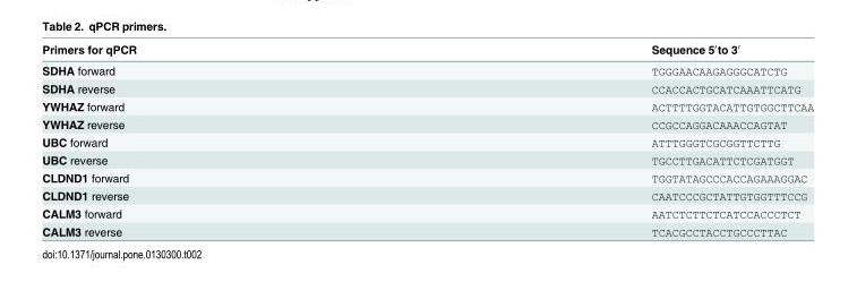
<table><thead><tr><td>Primers for qPCR</td><td>Sequence 5′to 3′</td></tr></thead><tbody><tr><td>SDHA forward</td><td>TGGGAACAAGAGGGCATCTG</td></tr><tr><td>SDHA reverse</td><td>CCACCACTGCATCAAATTCATG</td></tr><tr><td>YWHAZ forward</td><td>ACTTTTGGTACATTGTGGCTTCAA</td></tr><tr><td>YWHAZ reverse</td><td>CCGCCAGGACAAACCAGTAT</td></tr><tr><td>UBC forward</td><td>ATTTGGGTCGCGGTTCTTG</td></tr><tr><td>UBC reverse</td><td>TGCCTTGACATTCTCGATGGT</td></tr><tr><td>CLDND1 forward</td><td>TGGTATAGCCCACCAGAAAGGAC</td></tr><tr><td>CLDND1 reverse</td><td>CAATCCCGCTATTGTGGTTTCCG</td></tr><tr><td>CALM3 forward</td><td>AATCTCTTCTCATCCACCCTCT</td></tr><tr><td>CALM3 reverse</td><td>TCACGCCTACCTGCCCTTAC</td></tr></tbody></table>